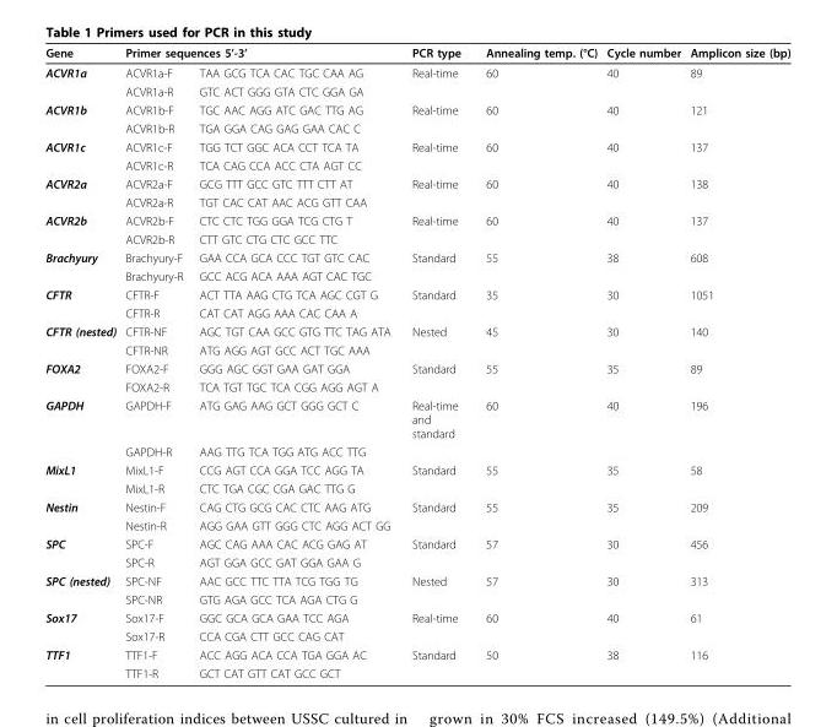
<table><thead><tr><td rowspan="2">Gene ACVR1a</td><td colspan="2">Primer sequences 5’-3’</td><td rowspan="2">PCR type Real-time</td><td rowspan="2">Annealing temp. (°C) 60</td><td rowspan="2">Cycle number 40</td><td rowspan="2">Amplicon size (bp) 89</td></tr><tr><td>ACVR1a-F</td><td>TAA GCG TCA CAC TGC CAA AG</td></tr></thead><tbody><tr><td></td><td>ACVR1a-R</td><td>GTC ACT GGG GTA CTC GGA GA</td><td></td><td></td><td></td><td></td></tr><tr><td rowspan="2">ACVR1b</td><td>ACVR1b-F</td><td>TGC AAC AGG ATC GAC TTG AG</td><td>Real-time</td><td>60</td><td>40</td><td>121</td></tr><tr><td>ACVR1b-R</td><td>TGA GGA CAG GAG GAA CAC C</td><td></td><td></td><td></td><td></td></tr><tr><td rowspan="2">ACVR1c</td><td>ACVR1c-F</td><td>TGG TCT GGC ACA CCT TCA TA</td><td>Real-time</td><td>60</td><td>40</td><td>137</td></tr><tr><td>ACVR1c-R</td><td>TCA CAG CCA ACC CTA AGT CC</td><td></td><td></td><td></td><td></td></tr><tr><td rowspan="2">ACVR2a</td><td>ACVR2a-F</td><td>GCG TTT GCC GTC TTT CTT AT</td><td>Real-time</td><td>60</td><td>40</td><td>138</td></tr><tr><td>ACVR2a-R</td><td>TGT CAC CAT AAC ACG GTT CAA</td><td></td><td></td><td></td><td></td></tr><tr><td rowspan="2">ACVR2b</td><td>ACVR2b-F</td><td>CTC CTC TGG GGA TCG CTG T</td><td>Real-time</td><td>60</td><td>40</td><td>137</td></tr><tr><td>ACVR2b-R</td><td>CTT GTC CTG CTC GCC TTC</td><td></td><td></td><td></td><td></td></tr><tr><td rowspan="2">Brachyury</td><td>Brachyury-F</td><td>GAA CCA GCA CCC TGT GTC CAC</td><td>Standard</td><td>55</td><td>38</td><td>608</td></tr><tr><td>Brachyury-R</td><td>GCC ACG ACA AAA AGT CAC TGC</td><td></td><td></td><td></td><td></td></tr><tr><td rowspan="2">CFTR</td><td>CFTR-F</td><td>ACT TTA AAG CTG TCA AGC CGT G</td><td>Standard</td><td>35</td><td>30</td><td>1051</td></tr><tr><td>CFTR-R</td><td>CAT CAT AGG AAA CAC CAA A</td><td></td><td></td><td></td><td></td></tr><tr><td rowspan="2">CFTR (nested)</td><td>CFTR-NF</td><td>AGC TGT CAA GCC GTG TTC TAG ATA</td><td>Nested</td><td>45</td><td>30</td><td>140</td></tr><tr><td>CFTR-NR</td><td>ATG AGG AGT GCC ACT TGC AAA</td><td></td><td></td><td></td><td></td></tr><tr><td rowspan="2">FOXA2</td><td>FOXA2-F</td><td>GGG AGC GGT GAA GAT GGA</td><td>Standard</td><td>55</td><td>35</td><td>89</td></tr><tr><td>FOXA2-R</td><td>TCA TGT TGC TCA CGG AGG AGT A</td><td></td><td></td><td></td><td></td></tr><tr><td rowspan="2">GAPDH</td><td>GAPDH-F</td><td>ATG GAG AAG GCT GGG GCT C</td><td>Real-time and standard</td><td>60</td><td>40</td><td>196</td></tr><tr><td>GAPDH-R</td><td>AAG TTG TCA TGG ATG ACC TTG</td><td></td><td></td><td></td><td></td></tr><tr><td rowspan="2">MixL1</td><td>MixL1-F</td><td>CCG AGT CCA GGA TCC AGG TA</td><td>Standard</td><td>55</td><td>35</td><td>58</td></tr><tr><td>MixL1-R</td><td>CTC TGA CGC CGA GAC TTG G</td><td></td><td></td><td></td><td></td></tr><tr><td rowspan="2">Nestin</td><td>Nestin-F</td><td>CAG CTG GCG CAC CTC AAG ATG</td><td>Standard</td><td>55</td><td>35</td><td>209</td></tr><tr><td>Nestin-R</td><td>AGG GAA GTT GGG CTC AGG ACT GG</td><td></td><td></td><td></td><td></td></tr><tr><td rowspan="2">SPC</td><td>SPC-F</td><td>AGC CAG AAA CAC ACG GAG AT</td><td>Standard</td><td>57</td><td>30</td><td>456</td></tr><tr><td>SPC-R</td><td>AGT GGA GCC GAT GGA GAA G</td><td></td><td></td><td></td><td></td></tr><tr><td rowspan="2">SPC (nested)</td><td>SPC-NF</td><td>AAC GCC TTC TTA TCG TGG TG</td><td>Nested</td><td>57</td><td>30</td><td>313</td></tr><tr><td>SPC-NR</td><td>GTG AGA GCC TCA AGA CTG G</td><td></td><td></td><td></td><td></td></tr><tr><td rowspan="2">Sox17</td><td>Sox17-F</td><td>GGC GCA GCA GAA TCC AGA</td><td>Real-time</td><td>60</td><td>40</td><td>61</td></tr><tr><td>Sox17-R</td><td>CCA CGA CTT GCC CAG CAT</td><td></td><td></td><td></td><td></td></tr><tr><td rowspan="2">TTF1</td><td>TTF1-F</td><td>ACC AGG ACA CCA TGA GGA AC</td><td>Standard</td><td>50</td><td>38</td><td>116</td></tr><tr><td>TTF1-R</td><td>GCT CAT GTT CAT GCC GCT</td><td></td><td></td><td></td><td></td></tr></tbody></table>